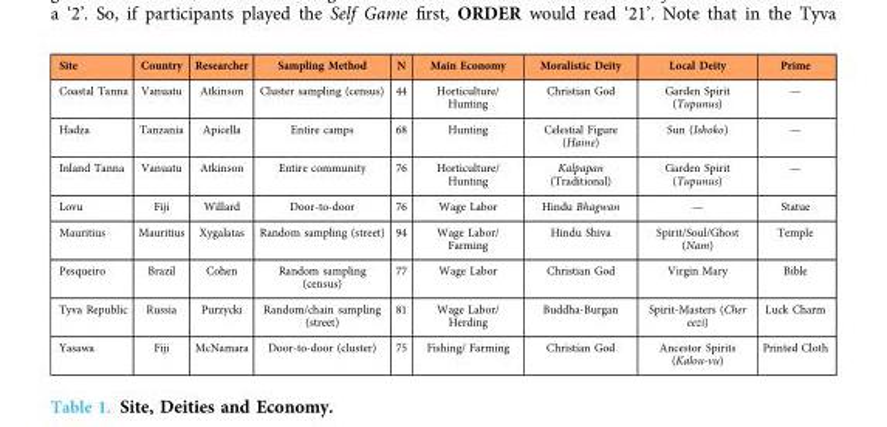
<table><thead><tr><td>Site</td><td>Country</td><td>Researcher</td><td>Sampling Method</td><td>N</td><td>Main Economy</td><td>Moralistic Deity</td><td>Local Deity</td><td>Prime</td></tr></thead><tbody><tr><td>Coastal Tanna</td><td>Vanuatu</td><td>Atkinson</td><td>Cluster sampling (census)</td><td>44</td><td>Horticulture/ Hunting</td><td>Christian God</td><td>Garden Spirit (Tupunus)</td><td>—</td></tr><tr><td>Hadza</td><td>Tanzania</td><td>Apicella</td><td>Entire camps</td><td>68</td><td>Hunting</td><td>Celestial Figure (Haine)</td><td>Sun (Ishoko)</td><td>—</td></tr><tr><td>Inland Tanna</td><td>Vanuatu</td><td>Atkinson</td><td>Entire community</td><td>76</td><td>Horticulture/ Hunting</td><td>Kalpapan (Traditional)</td><td>Garden Spirit (Tupunus)</td><td>—</td></tr><tr><td>Lovu</td><td>Fiji</td><td>Willard</td><td>Door-to-door</td><td>76</td><td>Wage Labor</td><td>Hindu Bhagwan</td><td>—</td><td>Statue</td></tr><tr><td>Mauritius</td><td>Mauritius</td><td>Xygalatas</td><td>Random sampling (street)</td><td>94</td><td>Wage Labor/ Farming</td><td>Hindu Shiva</td><td>Spirit/Soul/Ghost (Nam)</td><td>Temple</td></tr><tr><td>Pesqueiro</td><td>Brazil</td><td>Cohen</td><td>Random sampling (census)</td><td>77</td><td>Wage Labor</td><td>Christian God</td><td>Virgin Mary</td><td>Bible</td></tr><tr><td>Tyva Republic</td><td>Russia</td><td>Purzycki</td><td>Random/chain sampling (street)</td><td>81</td><td>Wage Labor/ Herding</td><td>Buddha-Burgan</td><td>Spirit-Masters (Cher eezi)</td><td>Luck Charm</td></tr><tr><td>Yasawa</td><td>Fiji</td><td>McNamara</td><td>Door-to-door (cluster)</td><td>75</td><td>Fishing/ Farming</td><td>Christian God</td><td>Ancestor Spirits (Kalou-vu)</td><td>Printed Cloth</td></tr></tbody></table>